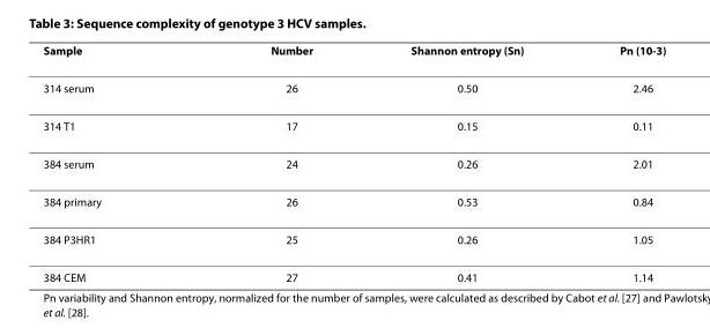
<table><thead><tr><td>Sample</td><td>Number</td><td>Shannon entropy (Sn)</td><td>Pn (10-3)</td></tr></thead><tbody><tr><td>314 serum</td><td>26</td><td>0.50</td><td>2.46</td></tr><tr><td>314 T1</td><td>17</td><td>0.15</td><td>0.11</td></tr><tr><td>384 serum</td><td>24</td><td>0.26</td><td>2.01</td></tr><tr><td>384 primary</td><td>26</td><td>0.53</td><td>0.84</td></tr><tr><td>384 P3HR1</td><td>25</td><td>0.26</td><td>1.05</td></tr><tr><td>384 CEM</td><td>27</td><td>0.41</td><td>1.14</td></tr></tbody></table>